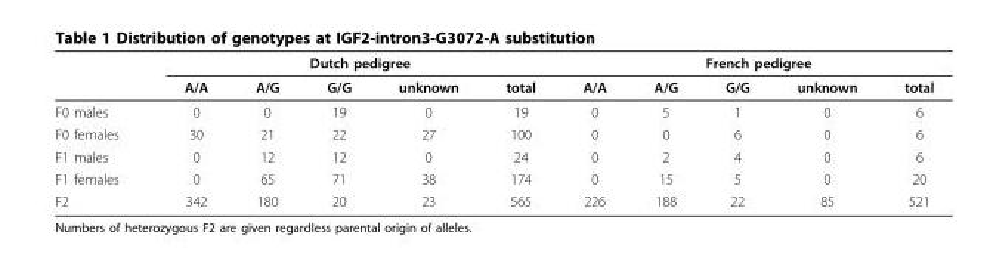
<table><thead><tr><td rowspan="2"></td><td colspan="5">Dutch pedigree</td><td colspan="5">French pedigree</td></tr><tr><td>A/A</td><td>A/G</td><td>G/G</td><td>unknown</td><td>total</td><td>A/A</td><td>A/G</td><td>G/G</td><td>unknown</td><td>total</td></tr></thead><tbody><tr><td>F0 males</td><td>0</td><td>0</td><td>19</td><td>0</td><td>19</td><td>0</td><td>5</td><td>1</td><td>0</td><td>6</td></tr><tr><td>F0 females</td><td>30</td><td>21</td><td>22</td><td>27</td><td>100</td><td>0</td><td>0</td><td>6</td><td>0</td><td>6</td></tr><tr><td>F1 males</td><td>0</td><td>12</td><td>12</td><td>0</td><td>24</td><td>0</td><td>2</td><td>4</td><td>0</td><td>6</td></tr><tr><td>F1 females</td><td>0</td><td>65</td><td>71</td><td>38</td><td>174</td><td>0</td><td>15</td><td>5</td><td>0</td><td>20</td></tr><tr><td>F2</td><td>342</td><td>180</td><td>20</td><td>23</td><td>565</td><td>226</td><td>188</td><td>22</td><td>85</td><td>521</td></tr></tbody></table>